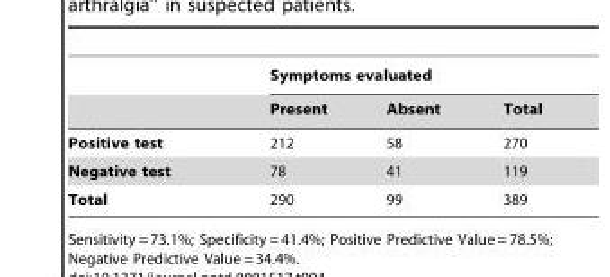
<table><thead><tr><td rowspan="2"></td><td colspan="3">Symptoms evaluated</td></tr><tr><td>Present</td><td>Absent</td><td>Total</td></tr></thead><tbody><tr><td>Positive test</td><td>212</td><td>58</td><td>270</td></tr><tr><td>Negative test</td><td>78</td><td>41</td><td>119</td></tr><tr><td>Total</td><td>290</td><td>99</td><td>389</td></tr></tbody></table>